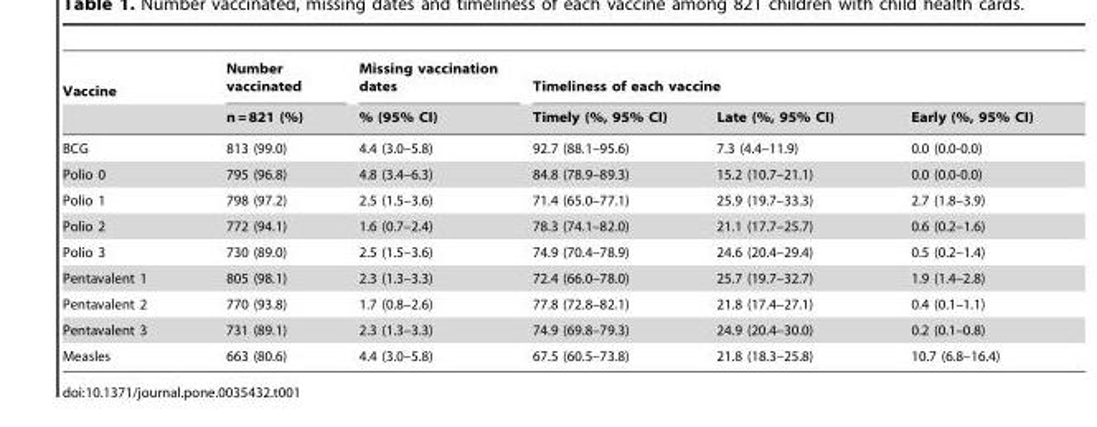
<table><thead><tr><td rowspan="2">Vaccine</td><td rowspan="2">Number vaccinated n = 821 (%)</td><td rowspan="2">Missing vaccination dates % (95% CI)</td><td colspan="3">Timeliness of each vaccine</td></tr><tr><td>Timely (%, 95% CI)</td><td>Late (%, 95% CI)</td><td>Early (%, 95% CI)</td></tr></thead><tbody><tr><td>BCG</td><td>813 (99.0)</td><td>4.4 (3.0–5.8)</td><td>92.7 (88.1–95.6)</td><td>7.3 (4.4–11.9)</td><td>0.0 (0.0-0.0)</td></tr><tr><td>Polio 0</td><td>795 (96.8)</td><td>4.8 (3.4–6.3)</td><td>84.8 (78.9–89.3)</td><td>15.2 (10.7–21.1)</td><td>0.0 (0.0-0.0)</td></tr><tr><td>Polio 1</td><td>798 (97.2)</td><td>2.5 (1.5–3.6)</td><td>71.4 (65.0–77.1)</td><td>25.9 (19.7–33.3)</td><td>2.7 (1.8–3.9)</td></tr><tr><td>Polio 2</td><td>772 (94.1)</td><td>1.6 (0.7–2.4)</td><td>78.3 (74.1–82.0)</td><td>21.1 (17.7–25.7)</td><td>0.6 (0.2–1.6)</td></tr><tr><td>Polio 3</td><td>730 (89.0)</td><td>2.5 (1.5–3.6)</td><td>74.9 (70.4–78.9)</td><td>24.6 (20.4–29.4)</td><td>0.5 (0.2–1.4)</td></tr><tr><td>Pentavalent 1</td><td>805 (98.1)</td><td>2.3 (1.3–3.3)</td><td>72.4 (66.0–78.0)</td><td>25.7 (19.7–32.7)</td><td>1.9 (1.4–2.8)</td></tr><tr><td>Pentavalent 2</td><td>770 (93.8)</td><td>1.7 (0.8–2.6)</td><td>77.8 (72.8–82.1)</td><td>21.8 (17.4–27.1)</td><td>0.4 (0.1–1.1)</td></tr><tr><td>Pentavalent 3</td><td>731 (89.1)</td><td>2.3 (1.3–3.3)</td><td>74.9 (69.8–79.3)</td><td>24.9 (20.4–30.0)</td><td>0.2 (0.1–0.8)</td></tr><tr><td>Measles</td><td>663 (80.6)</td><td>4.4 (3.0–5.8)</td><td>67.5 (60.5–73.8)</td><td>21.8 (18.3–25.8)</td><td>10.7 (6.8–16.4)</td></tr></tbody></table>